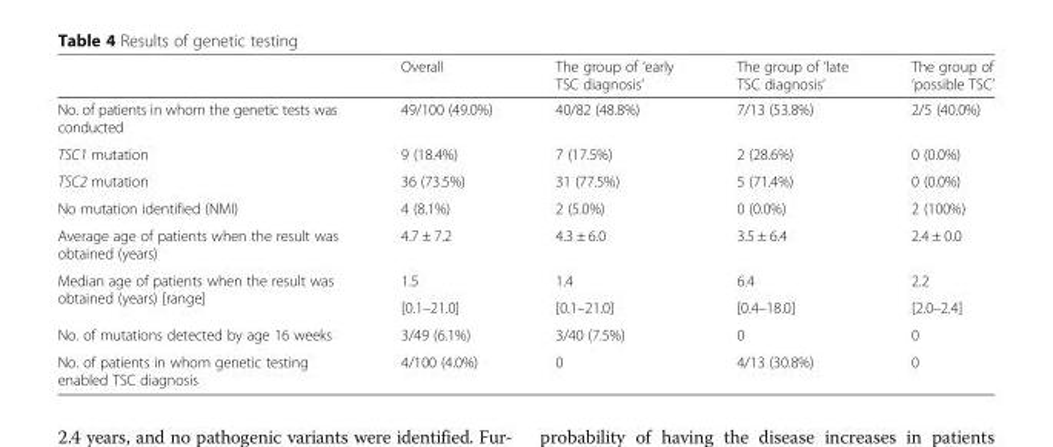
<table><thead><tr><td></td><td>Overall</td><td>The group of ‘early TSC diagnosis’</td><td>The group of ‘late TSC diagnosis’</td><td>The group of ‘possible TSC’</td></tr></thead><tbody><tr><td>No. of patients in whom the genetic tests was conducted</td><td>49/100 (49.0%)</td><td>40/82 (48.8%)</td><td>7/13 (53.8%)</td><td>2/5 (40.0%)</td></tr><tr><td>TSC1 mutation</td><td>9 (18.4%)</td><td>7 (17.5%)</td><td>2 (28.6%)</td><td>0 (0.0%)</td></tr><tr><td>TSC2 mutation</td><td>36 (73.5%)</td><td>31 (77.5%)</td><td>5 (71.4%)</td><td>0 (0.0%)</td></tr><tr><td>No mutation identified (NMI)</td><td>4 (8.1%)</td><td>2 (5.0%)</td><td>0 (0.0%)</td><td>2 (100%)</td></tr><tr><td>Average age of patients when the result was obtained (years)</td><td>4.7 ± 7.2</td><td>4.3 ± 6.0</td><td>3.5 ± 6.4</td><td>2.4 ± 0.0</td></tr><tr><td rowspan="2">Median age of patients when the result was obtained (years) [range]</td><td>1.5</td><td>1.4</td><td>6.4</td><td>2.2</td></tr><tr><td>[0.1–21.0]</td><td>[0.1–21.0]</td><td>[0.4–18.0]</td><td>[2.0–2.4]</td></tr><tr><td>No. of mutations detected by age 16 weeks</td><td>3/49 (6.1%)</td><td>3/40 (7.5%)</td><td>0</td><td>0</td></tr><tr><td>No. of patients in whom genetic testing enabled TSC diagnosis</td><td>4/100 (4.0%)</td><td>0</td><td>4/13 (30.8%)</td><td>0</td></tr></tbody></table>